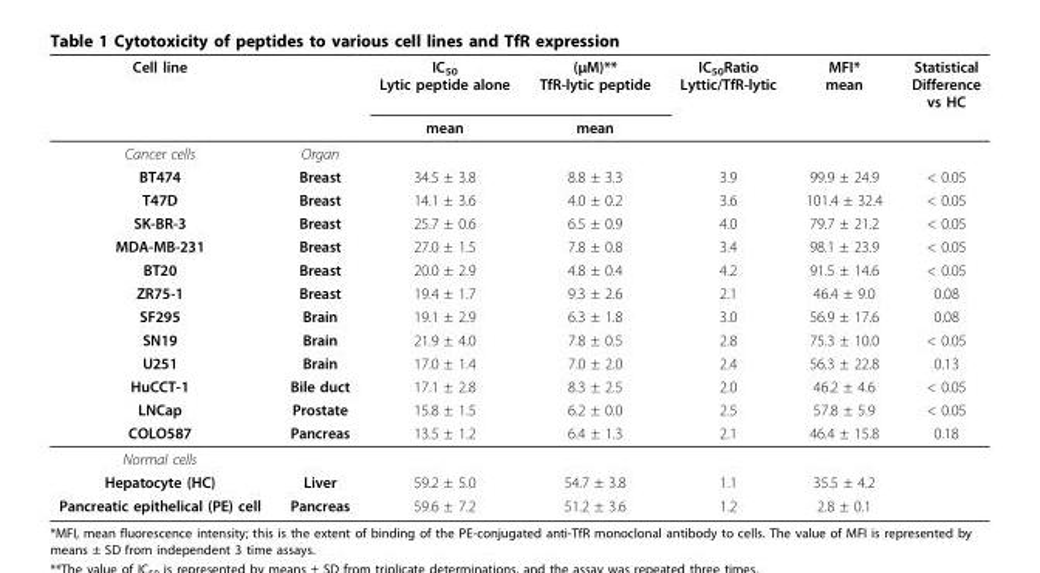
<table><thead><tr><td rowspan="2">Cell line</td><td rowspan="2"></td><td rowspan="2">IC<sub>50</sub> Lytic peptide alone mean</td><td rowspan="2">(μM)** TfR-lytic peptide mean</td><td rowspan="2">IC<sub>50</sub>Ratio Lyttic/TfR-lytic</td><td rowspan="2">MFI* mean</td><td rowspan="2">Statistical Difference vs HC</td></tr><tr></tr></thead><tbody><tr><td>Cancer cells</td><td>Organ</td><td></td><td></td><td></td><td></td><td></td></tr><tr><td>BT474</td><td>Breast</td><td>34.5 ± 3.8</td><td>8.8 ± 3.3</td><td>3.9</td><td>99.9 ± 24.9</td><td>&lt; 0.05</td></tr><tr><td>T47D</td><td>Breast</td><td>14.1 ± 3.6</td><td>4.0 ± 0.2</td><td>3.6</td><td>101.4 ± 32.4</td><td>&lt; 0.05</td></tr><tr><td>SK-BR-3</td><td>Breast</td><td>25.7 ± 0.6</td><td>6.5 ± 0.9</td><td>4.0</td><td>79.7 ± 21.2</td><td>&lt; 0.05</td></tr><tr><td>MDA-MB-231</td><td>Breast</td><td>27.0 ± 1.5</td><td>7.8 ± 0.8</td><td>3.4</td><td>98.1 ± 23.9</td><td>&lt; 0.05</td></tr><tr><td>BT20</td><td>Breast</td><td>20.0 ± 2.9</td><td>4.8 ± 0.4</td><td>4.2</td><td>91.5 ± 14.6</td><td>&lt; 0.05</td></tr><tr><td>ZR75-1</td><td>Breast</td><td>19.4 ± 1.7</td><td>9.3 ± 2.6</td><td>2.1</td><td>46.4 ± 9.0</td><td>0.08</td></tr><tr><td>SF295</td><td>Brain</td><td>19.1 ± 2.9</td><td>6.3 ± 1.8</td><td>3.0</td><td>56.9 ± 17.6</td><td>0.08</td></tr><tr><td>SN19</td><td>Brain</td><td>21.9 ± 4.0</td><td>7.8 ± 0.5</td><td>2.8</td><td>75.3 ± 10.0</td><td>&lt; 0.05</td></tr><tr><td>U251</td><td>Brain</td><td>17.0 ± 1.4</td><td>7.0 ± 2.0</td><td>2.4</td><td>56.3 ± 22.8</td><td>0.13</td></tr><tr><td>HuCCT-1</td><td>Bile duct</td><td>17.1 ± 2.8</td><td>8.3 ± 2.5</td><td>2.0</td><td>46.2 ± 4.6</td><td>&lt; 0.05</td></tr><tr><td>LNCap</td><td>Prostate</td><td>15.8 ± 1.5</td><td>6.2 ± 0.0</td><td>2.5</td><td>57.8 ± 5.9</td><td>&lt; 0.05</td></tr><tr><td>COLO587</td><td>Pancreas</td><td>13.5 ± 1.2</td><td>6.4 ± 1.3</td><td>2.1</td><td>46.4 ± 15.8</td><td>0.18</td></tr><tr><td colspan="7">Normal cells</td></tr><tr><td>Hepatocyte (HC)</td><td>Liver</td><td>59.2 ± 5.0</td><td>54.7 ± 3.8</td><td>1.1</td><td>35.5 ± 4.2</td><td></td></tr><tr><td>Pancreatic epithelical (PE) cell</td><td>Pancreas</td><td>59.6 ± 7.2</td><td>51.2 ± 3.6</td><td>1.2</td><td>2.8 ± 0.1</td><td></td></tr></tbody></table>